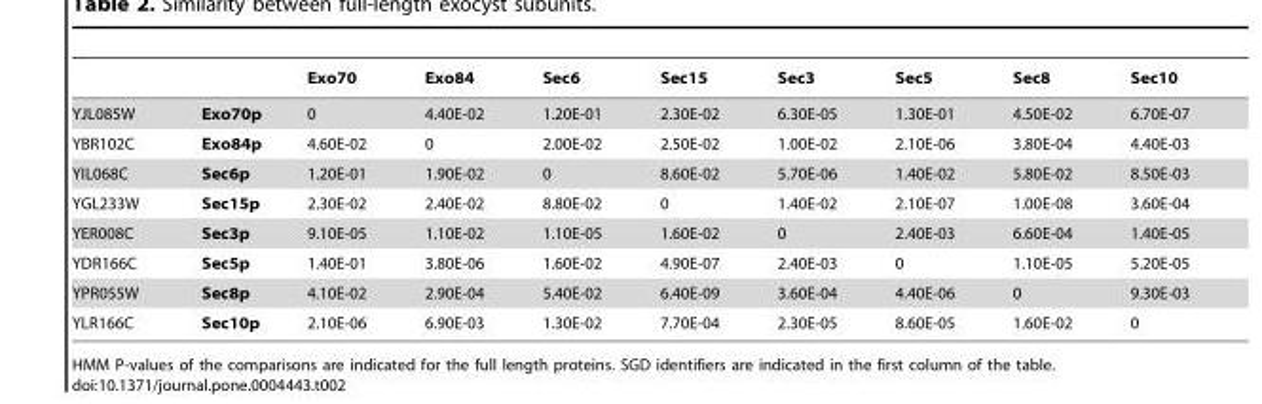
<table><thead><tr><td></td><td></td><td>Exo70</td><td>Exo84</td><td>Sec6</td><td>Sec15</td><td>Sec3</td><td>Sec5</td><td>Sec8</td><td>Sec10</td></tr></thead><tbody><tr><td>YJL085W</td><td>Exo70p</td><td>0</td><td>4.40E-02</td><td>1.20E-01</td><td>2.30E-02</td><td>6.30E-05</td><td>1.30E-01</td><td>4.50E-02</td><td>6.70E-07</td></tr><tr><td>YBR102C</td><td>Exo84p</td><td>4.60E-02</td><td>0</td><td>2.00E-02</td><td>2.50E-02</td><td>1.00E-02</td><td>2.10E-06</td><td>3.80E-04</td><td>4.40E-03</td></tr><tr><td>YIL068C</td><td>Sec6p</td><td>1.20E-01</td><td>1.90E-02</td><td>0</td><td>8.60E-02</td><td>5.70E-06</td><td>1.40E-02</td><td>5.80E-02</td><td>8.50E-03</td></tr><tr><td>YGL233W</td><td>Sec15p</td><td>2.30E-02</td><td>2.40E-02</td><td>8.80E-02</td><td>0</td><td>1.40E-02</td><td>2.10E-07</td><td>1.00E-08</td><td>3.60E-04</td></tr><tr><td>YER008C</td><td>Sec3p</td><td>9.10E-05</td><td>1.10E-02</td><td>1.10E-05</td><td>1.60E-02</td><td>0</td><td>2.40E-03</td><td>6.60E-04</td><td>1.40E-05</td></tr><tr><td>YDR166C</td><td>Sec5p</td><td>1.40E-01</td><td>3.80E-06</td><td>1.60E-02</td><td>4.90E-07</td><td>2.40E-03</td><td>0</td><td>1.10E-05</td><td>5.20E-05</td></tr><tr><td>YPR055W</td><td>Sec8p</td><td>4.10E-02</td><td>2.90E-04</td><td>5.40E-02</td><td>6.40E-09</td><td>3.60E-04</td><td>4.40E-06</td><td>0</td><td>9.30E-03</td></tr><tr><td>YLR166C</td><td>Sec10p</td><td>2.10E-06</td><td>6.90E-03</td><td>1.30E-02</td><td>7.70E-04</td><td>2.30E-05</td><td>8.60E-05</td><td>1.60E-02</td><td>0</td></tr></tbody></table>